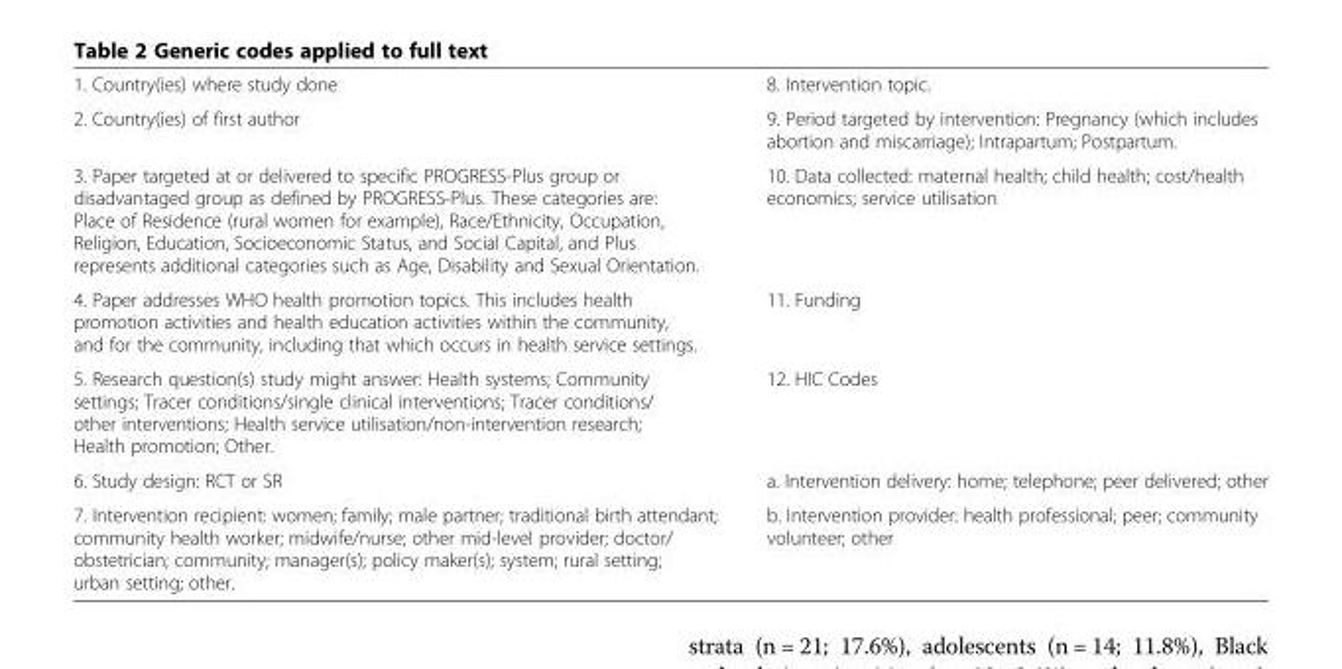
<table><tbody><tr><td>1. Country(ies) where study done</td><td>8. Intervention topic.</td></tr><tr><td>2. Country(ies) of first author</td><td>9. Period targeted by intervention: Pregnancy (which includes abortion and miscarriage); Intrapartum; Postpartum.</td></tr><tr><td>3. Paper targeted at or delivered to specific PROGRESS-Plus group or disadvantaged group as defined by PROGRESS-Plus. These categories are: Place of Residence (rural women for example), Race/Ethnicity, Occupation, Religion, Education, Socioeconomic Status, and Social Capital, and Plus represents additional categories such as Age, Disability and Sexual Orientation.</td><td>10. Data collected: maternal health; child health; cost/health economics; service utilisation</td></tr><tr><td>4. Paper addresses WHO health promotion topics. This includes health promotion activities and health education activities within the community, and for the community, including that which occurs in health service settings.</td><td>11. Funding</td></tr><tr><td>5. Research question(s) study might answer: Health systems; Community settings; Tracer conditions/single clinical interventions; Tracer conditions/ other interventions; Health service utilisation/non-intervention research; Health promotion; Other.</td><td>12. HIC Codes</td></tr><tr><td>6. Study design: RCT or SR</td><td>a. Intervention delivery: home; telephone; peer delivered; other</td></tr><tr><td>7. Intervention recipient: women; family; male partner; traditional birth attendant; community health worker; midwife/nurse; other mid-level provider; doctor/ obstetrician; community; manager(s); policy maker(s); system; rural setting; urban setting; other.</td><td>b. Intervention provider: health professional; peer; community volunteer; other</td></tr></tbody></table>